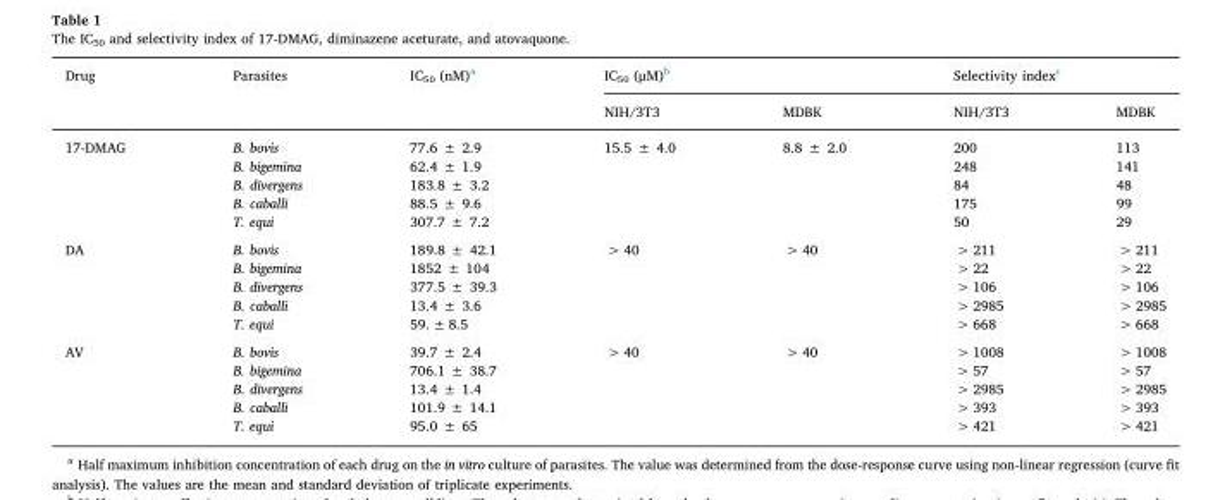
<table><thead><tr><td rowspan="2">Drug</td><td rowspan="2">Parasites</td><td rowspan="2">IC<sub>50</sub> (nM)<sup>a</sup></td><td colspan="2">IC<sub>50</sub> (μM)<sup>b</sup></td><td colspan="2">Selectivity index<sup>c</sup></td></tr><tr><td>NIH/3T3</td><td>MDBK</td><td>NIH/3T3</td><td>MDBK</td></tr></thead><tbody><tr><td rowspan="5">17-DMAG</td><td>B. bovis</td><td>77.6 ± 2.9</td><td>15.5 ± 4.0</td><td>8.8 ± 2.0</td><td>200</td><td>113</td></tr><tr><td>B. bigemina</td><td>62.4 ± 1.9</td><td></td><td></td><td>248</td><td>141</td></tr><tr><td>B. divergens</td><td>183.8 ± 3.2</td><td></td><td></td><td>84</td><td>48</td></tr><tr><td>B. caballi</td><td>88.5 ± 9.6</td><td></td><td></td><td>175</td><td>99</td></tr><tr><td>T. equi</td><td>307.7 ± 7.2</td><td></td><td></td><td>50</td><td>29</td></tr><tr><td rowspan="5">DA</td><td>B. bovis</td><td>189.8 ± 42.1</td><td>&gt; 40</td><td>&gt; 40</td><td>&gt; 211</td><td>&gt; 211</td></tr><tr><td>B. bigemina</td><td>1852 ± 104</td><td></td><td></td><td>&gt; 22</td><td>&gt; 22</td></tr><tr><td>B. divergens</td><td>377.5 ± 39.3</td><td></td><td></td><td>&gt; 106</td><td>&gt; 106</td></tr><tr><td>B. caballi</td><td>13.4 ± 3.6</td><td></td><td></td><td>&gt; 2985</td><td>&gt; 2985</td></tr><tr><td>T. equi</td><td>59. ± 8.5</td><td></td><td></td><td>&gt; 668</td><td>&gt; 668</td></tr><tr><td rowspan="5">AV</td><td>B. bovis</td><td>39.7 ± 2.4</td><td>&gt; 40</td><td>&gt; 40</td><td>&gt; 1008</td><td>&gt; 1008</td></tr><tr><td>B. bigemina</td><td>706.1 ± 38.7</td><td></td><td></td><td>&gt; 57</td><td>&gt; 57</td></tr><tr><td>B. divergens</td><td>13.4 ± 1.4</td><td></td><td></td><td>&gt; 2985</td><td>&gt; 2985</td></tr><tr><td>B. caballi</td><td>101.9 ± 14.1</td><td></td><td></td><td>&gt; 393</td><td>&gt; 393</td></tr><tr><td>T. equi</td><td>95.0 ± 65</td><td></td><td></td><td>&gt; 421</td><td>&gt; 421</td></tr></tbody></table>